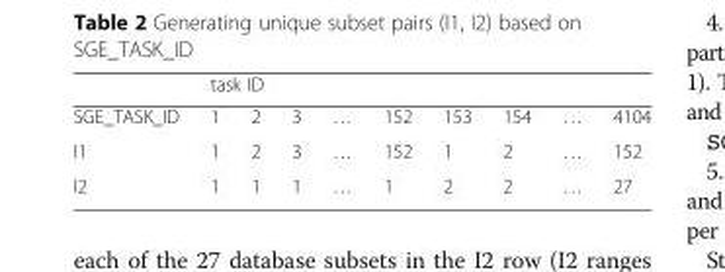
<table><thead><tr><td rowspan="2">SGE_TASK_ID</td><td colspan="9">task ID</td></tr><tr><td>1</td><td>2</td><td>3</td><td>…</td><td>152</td><td>153</td><td>154</td><td>…</td><td>4104</td></tr></thead><tbody><tr><td>I1</td><td>1</td><td>2</td><td>3</td><td>…</td><td>152</td><td>1</td><td>2</td><td>…</td><td>152</td></tr><tr><td>I2</td><td>1</td><td>1</td><td>1</td><td>…</td><td>1</td><td>2</td><td>2</td><td>…</td><td>27</td></tr></tbody></table>